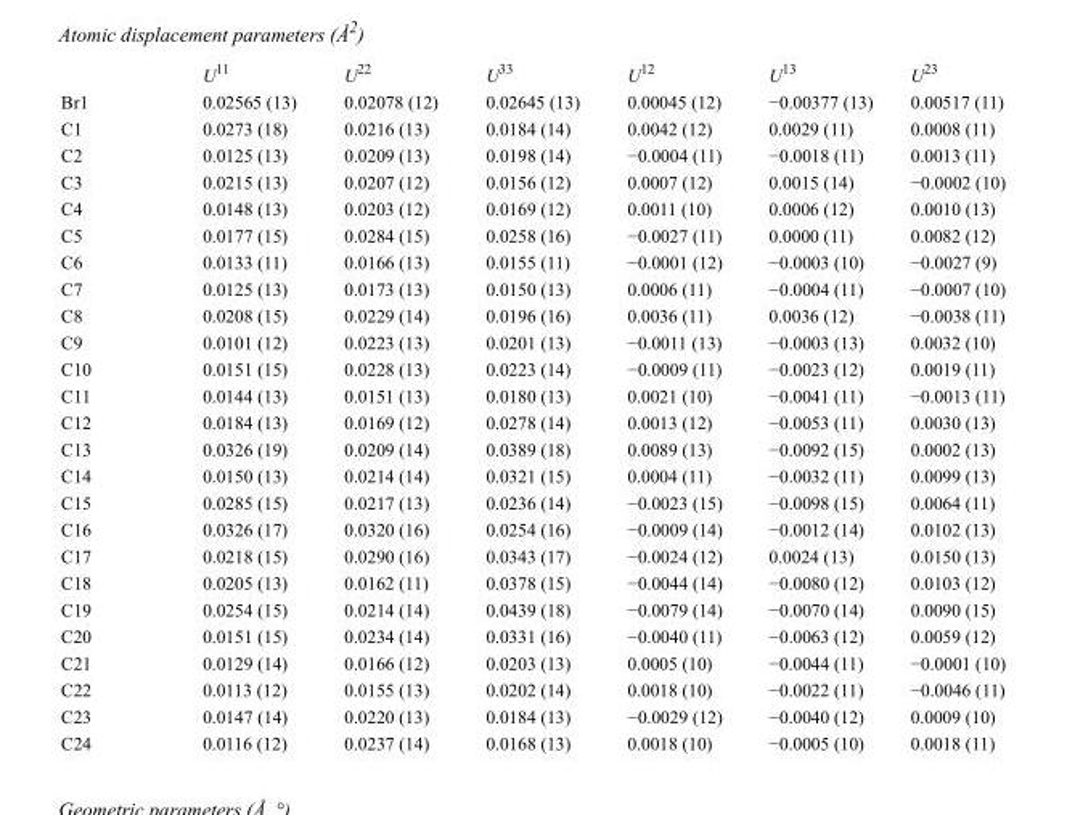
<table><thead><tr><td></td><td>U<sup>11</sup></td><td>U<sup>22</sup></td><td>U<sup>33</sup></td><td>U<sup>12</sup></td><td>U<sup>13</sup></td><td>U<sup>23</sup></td></tr></thead><tbody><tr><td>Br1</td><td>0.02565 (13)</td><td>0.02078 (12)</td><td>0.02645 (13)</td><td>0.00045 (12)</td><td>−0.00377 (13)</td><td>0.00517 (11)</td></tr><tr><td>C1</td><td>0.0273 (18)</td><td>0.0216 (13)</td><td>0.0184 (14)</td><td>0.0042 (12)</td><td>0.0029 (11)</td><td>0.0008 (11)</td></tr><tr><td>C2</td><td>0.0125 (13)</td><td>0.0209 (13)</td><td>0.0198 (14)</td><td>−0.0004 (11)</td><td>−0.0018 (11)</td><td>0.0013 (11)</td></tr><tr><td>C3</td><td>0.0215 (13)</td><td>0.0207 (12)</td><td>0.0156 (12)</td><td>0.0007 (12)</td><td>0.0015 (14)</td><td>−0.0002 (10)</td></tr><tr><td>C4</td><td>0.0148 (13)</td><td>0.0203 (12)</td><td>0.0169 (12)</td><td>0.0011 (10)</td><td>0.0006 (12)</td><td>0.0010 (13)</td></tr><tr><td>C5</td><td>0.0177 (15)</td><td>0.0284 (15)</td><td>0.0258 (16)</td><td>−0.0027 (11)</td><td>0.0000 (11)</td><td>0.0082 (12)</td></tr><tr><td>C6</td><td>0.0133 (11)</td><td>0.0166 (13)</td><td>0.0155 (11)</td><td>−0.0001 (12)</td><td>−0.0003 (10)</td><td>−0.0027 (9)</td></tr><tr><td>C7</td><td>0.0125 (13)</td><td>0.0173 (13)</td><td>0.0150 (13)</td><td>0.0006 (11)</td><td>−0.0004 (11)</td><td>−0.0007 (10)</td></tr><tr><td>C8</td><td>0.0208 (15)</td><td>0.0229 (14)</td><td>0.0196 (16)</td><td>0.0036 (11)</td><td>0.0036 (12)</td><td>−0.0038 (11)</td></tr><tr><td>C9</td><td>0.0101 (12)</td><td>0.0223 (13)</td><td>0.0201 (13)</td><td>−0.0011 (13)</td><td>−0.0003 (13)</td><td>0.0032 (10)</td></tr><tr><td>C10</td><td>0.0151 (15)</td><td>0.0228 (13)</td><td>0.0223 (14)</td><td>−0.0009 (11)</td><td>−0.0023 (12)</td><td>0.0019 (11)</td></tr><tr><td>C11</td><td>0.0144 (13)</td><td>0.0151 (13)</td><td>0.0180 (13)</td><td>0.0021 (10)</td><td>−0.0041 (11)</td><td>−0.0013 (11)</td></tr><tr><td>C12</td><td>0.0184 (13)</td><td>0.0169 (12)</td><td>0.0278 (14)</td><td>0.0013 (12)</td><td>−0.0053 (11)</td><td>0.0030 (13)</td></tr><tr><td>C13</td><td>0.0326 (19)</td><td>0.0209 (14)</td><td>0.0389 (18)</td><td>0.0089 (13)</td><td>−0.0092 (15)</td><td>0.0002 (13)</td></tr><tr><td>C14</td><td>0.0150 (13)</td><td>0.0214 (14)</td><td>0.0321 (15)</td><td>0.0004 (11)</td><td>−0.0032 (11)</td><td>0.0099 (13)</td></tr><tr><td>C15</td><td>0.0285 (15)</td><td>0.0217 (13)</td><td>0.0236 (14)</td><td>−0.0023 (15)</td><td>−0.0098 (15)</td><td>0.0064 (11)</td></tr><tr><td>C16</td><td>0.0326 (17)</td><td>0.0320 (16)</td><td>0.0254 (16)</td><td>−0.0009 (14)</td><td>−0.0012 (14)</td><td>0.0102 (13)</td></tr><tr><td>C17</td><td>0.0218 (15)</td><td>0.0290 (16)</td><td>0.0343 (17)</td><td>−0.0024 (12)</td><td>0.0024 (13)</td><td>0.0150 (13)</td></tr><tr><td>C18</td><td>0.0205 (13)</td><td>0.0162 (11)</td><td>0.0378 (15)</td><td>−0.0044 (14)</td><td>−0.0080 (12)</td><td>0.0103 (12)</td></tr><tr><td>C19</td><td>0.0254 (15)</td><td>0.0214 (14)</td><td>0.0439 (18)</td><td>−0.0079 (14)</td><td>−0.0070 (14)</td><td>0.0090 (15)</td></tr><tr><td>C20</td><td>0.0151 (15)</td><td>0.0234 (14)</td><td>0.0331 (16)</td><td>−0.0040 (11)</td><td>−0.0063 (12)</td><td>0.0059 (12)</td></tr><tr><td>C21</td><td>0.0129 (14)</td><td>0.0166 (12)</td><td>0.0203 (13)</td><td>0.0005 (10)</td><td>−0.0044 (11)</td><td>−0.0001 (10)</td></tr><tr><td>C22</td><td>0.0113 (12)</td><td>0.0155 (13)</td><td>0.0202 (14)</td><td>0.0018 (10)</td><td>−0.0022 (11)</td><td>−0.0046 (11)</td></tr><tr><td>C23</td><td>0.0147 (14)</td><td>0.0220 (13)</td><td>0.0184 (13)</td><td>−0.0029 (12)</td><td>−0.0040 (12)</td><td>0.0009 (10)</td></tr><tr><td>C24</td><td>0.0116 (12)</td><td>0.0237 (14)</td><td>0.0168 (13)</td><td>0.0018 (10)</td><td>−0.0005 (10)</td><td>0.0018 (11)</td></tr></tbody></table>